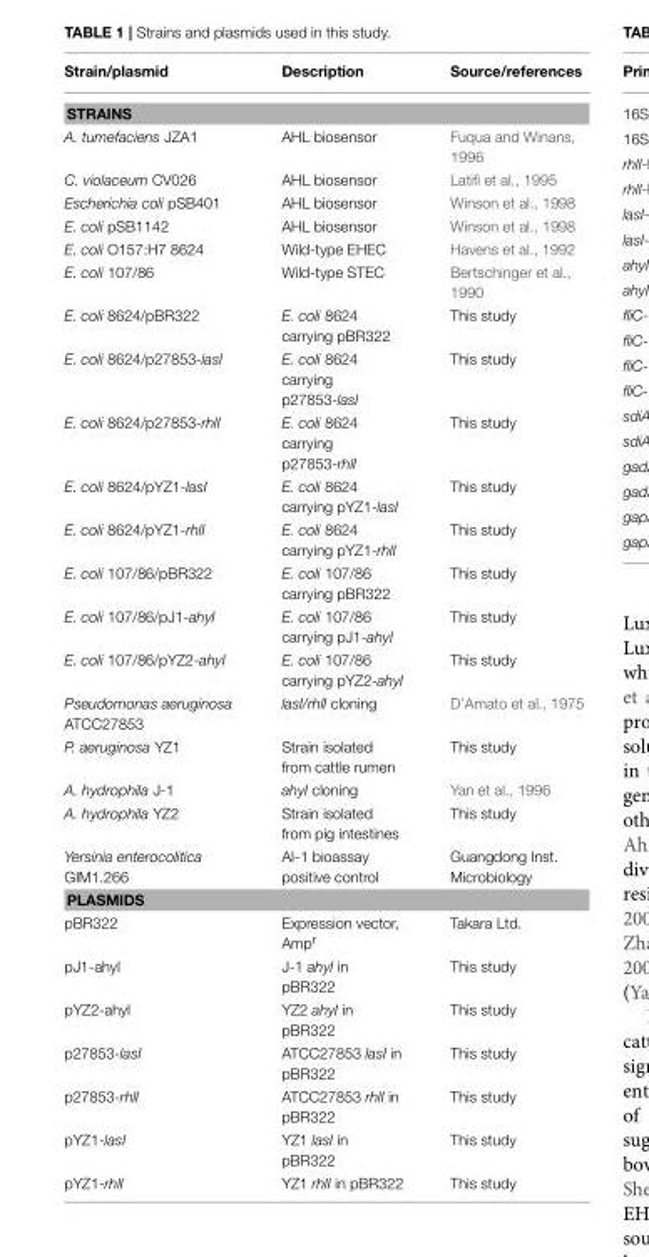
<table><thead><tr><td>Strain/plasmid</td><td>Description</td><td>Source/references</td></tr></thead><tbody><tr><td colspan="3">STRAINS</td></tr><tr><td>A. tumefaciens JZA1</td><td>AHL biosensor</td><td>Fuqua and Winans, 1996</td></tr><tr><td>C. violaceum CV026</td><td>AHL biosensor</td><td>Latifi et al., 1995</td></tr><tr><td>Escherichia coli pSB401</td><td>AHL biosensor</td><td>Winson et al., 1998</td></tr><tr><td>E. coli pSB1142</td><td>AHL biosensor</td><td>Winson et al., 1998</td></tr><tr><td>E. coli O157:H7 8624</td><td>Wild-type EHEC</td><td>Havens et al., 1992</td></tr><tr><td>E. coli 107/86</td><td>Wild-type STEC</td><td>Bertschinger et al., 1990</td></tr><tr><td>E. coli 8624/pBR322</td><td>E. coli 8624 carrying pBR322</td><td>This study</td></tr><tr><td>E. coli 8624/p27853-lasI</td><td>E. coli 8624 carrying p27853-lasI</td><td>This study</td></tr><tr><td>E. coli 8624/p27853-rhlI</td><td>E. coli 8624 carrying p27853-rhlI</td><td>This study</td></tr><tr><td>E. coli 8624/pYZ1-lasI</td><td>E. coli 8624 carrying pYZ1-lasI</td><td>This study</td></tr><tr><td>E. coli 8624/pYZ1-rhlI</td><td>E. coli 8624 carrying pYZ1-rhlI</td><td>This study</td></tr><tr><td>E. coli 107/86/pBR322</td><td>E. coli 107/86 carrying pBR322</td><td>This study</td></tr><tr><td>E. coli 107/86/pJ1-ahyI</td><td>E. coli 107/86 carrying pJ1-ahyI</td><td>This study</td></tr><tr><td>E. coli 107/86/pYZ2-ahyI</td><td>E. coli 107/86 carrying pYZ2-ahyI</td><td>This study</td></tr><tr><td>Pseudomonas aeruginosa ATCC27853</td><td>lasI/rhlI cloning</td><td>D’Amato et al., 1975</td></tr><tr><td>P. aeruginosa YZ1</td><td>Strain isolated from cattle rumen</td><td>This study</td></tr><tr><td>A. hydrophila J-1</td><td>ahyI cloning</td><td>Yan et al., 1996</td></tr><tr><td>A. hydrophila YZ2</td><td>Strain isolated from pig intestines</td><td>This study</td></tr><tr><td>Yersinia enterocolitica GIM1.266</td><td>AI-1 bioassay positive control</td><td>Guangdong Inst. Microbiology</td></tr><tr><td colspan="3">PLASMIDS</td></tr><tr><td>pBR322</td><td>Expression vector, Amp<sup>r</sup></td><td>Takara Ltd.</td></tr><tr><td>pJ1-ahyI</td><td>J-1 ahyI in pBR322</td><td>This study</td></tr><tr><td>pYZ2-ahyI</td><td>YZ2 ahyI in pBR322</td><td>This study</td></tr><tr><td>p27853-lasI</td><td>ATCC27853 lasI in pBR322</td><td>This study</td></tr><tr><td>p27853-rhlI</td><td>ATCC27853 rhlI in pBR322</td><td>This study</td></tr><tr><td>pYZ1-lasI</td><td>YZ1 lasI in pBR322</td><td>This study</td></tr><tr><td>pYZ1-rhlI</td><td>YZ1 rhlI in pBR322</td><td>This study</td></tr></tbody></table>